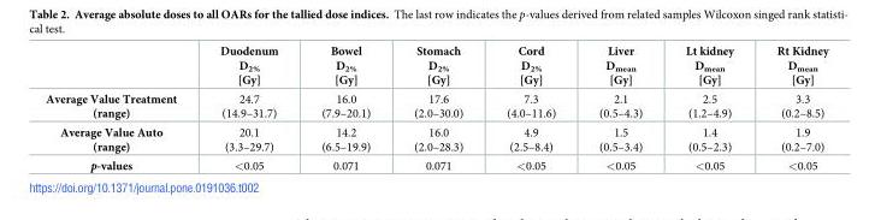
<table><thead><tr><td></td><td>Duodenum D<sub>2%</sub> [Gy]</td><td>Bowel D<sub>2%</sub> [Gy]</td><td>Stomach D<sub>2%</sub> [Gy]</td><td>Cord D<sub>2%</sub> [Gy]</td><td>Liver D<sub>mean</sub> [Gy]</td><td>Lt kidney D<sub>mean</sub> [Gy]</td><td>Rt Kidney D<sub>mean</sub> [Gy]</td></tr></thead><tbody><tr><td>Average Value Treatment (range)</td><td>24.7 (14.9–31.7)</td><td>16.0 (7.9–20.1)</td><td>17.6 (2.0–30.0)</td><td>7.3 (4.0–11.6)</td><td>2.1 (0.5–4.3)</td><td>2.5 (1.2–4.9)</td><td>3.3 (0.2–8.5)</td></tr><tr><td>Average Value Auto (range)</td><td>20.1 (3.3–29.7)</td><td>14.2 (6.5–19.9)</td><td>16.0 (2.0–28.3)</td><td>4.9 (2.5–8.4)</td><td>1.5 (0.5–3.4)</td><td>1.4 (0.5–2.3)</td><td>1.9 (0.2–7.0)</td></tr><tr><td>p-values</td><td>&lt;0.05</td><td>0.071</td><td>0.071</td><td>&lt;0.05</td><td>&lt;0.05</td><td>&lt;0.05</td><td>&lt;0.05</td></tr></tbody></table>